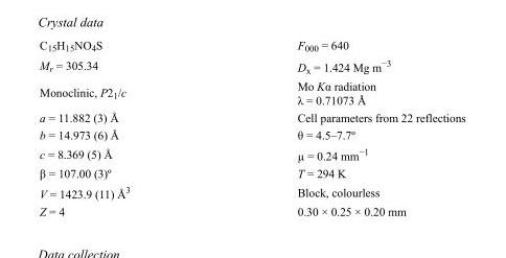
<table><tbody><tr><td>C<sub>15</sub>H<sub>15</sub>NO<sub>4</sub>S</td><td>F000 = 640</td></tr><tr><td>M<sub>r</sub> = 305.34</td><td>D<sub>x</sub> = 1.424 Mg m<sup>−3</sup></td></tr><tr><td>Monoclinic, P2<sub>1</sub>/c</td><td>Mo Kα radiation λ = 0.71073 Å</td></tr><tr><td>a = 11.882 (3) Å</td><td>Cell parameters from 22 reflections</td></tr><tr><td>b = 14.973 (6) Å</td><td>θ = 4.5–7.7º</td></tr><tr><td>c = 8.369 (5) Å</td><td>µ = 0.24 mm<sup>−1</sup></td></tr><tr><td>β = 107.00 (3)º</td><td>T = 294 K</td></tr><tr><td>V = 1423.9 (11) Å<sup>3</sup></td><td>Block, colourless</td></tr><tr><td>Z = 4</td><td>0.30 × 0.25 × 0.20 mm</td></tr></tbody></table>